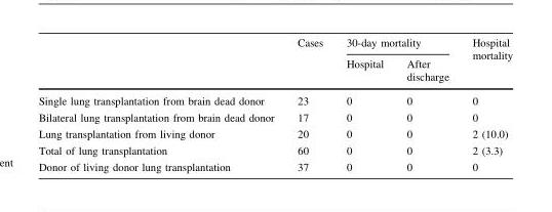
<table><thead><tr><td rowspan="2"></td><td rowspan="2">Cases</td><td colspan="2">30-day mortality</td><td rowspan="2">Hospital mortality</td></tr><tr><td>Hospital</td><td>After discharge</td></tr></thead><tbody><tr><td>Single lung transplantation from brain dead donor</td><td>23</td><td>0</td><td>0</td><td>0</td></tr><tr><td>Bilateral lung transplantation from brain dead donor</td><td>17</td><td>0</td><td>0</td><td>0</td></tr><tr><td>Lung transplantation from living donor</td><td>20</td><td>0</td><td>0</td><td>2 (10.0)</td></tr><tr><td>Total of lung transplantation</td><td>60</td><td>0</td><td>0</td><td>2 (3.3)</td></tr><tr><td>Donor of living donor lung transplantation</td><td>37</td><td>0</td><td>0</td><td>0</td></tr></tbody></table>